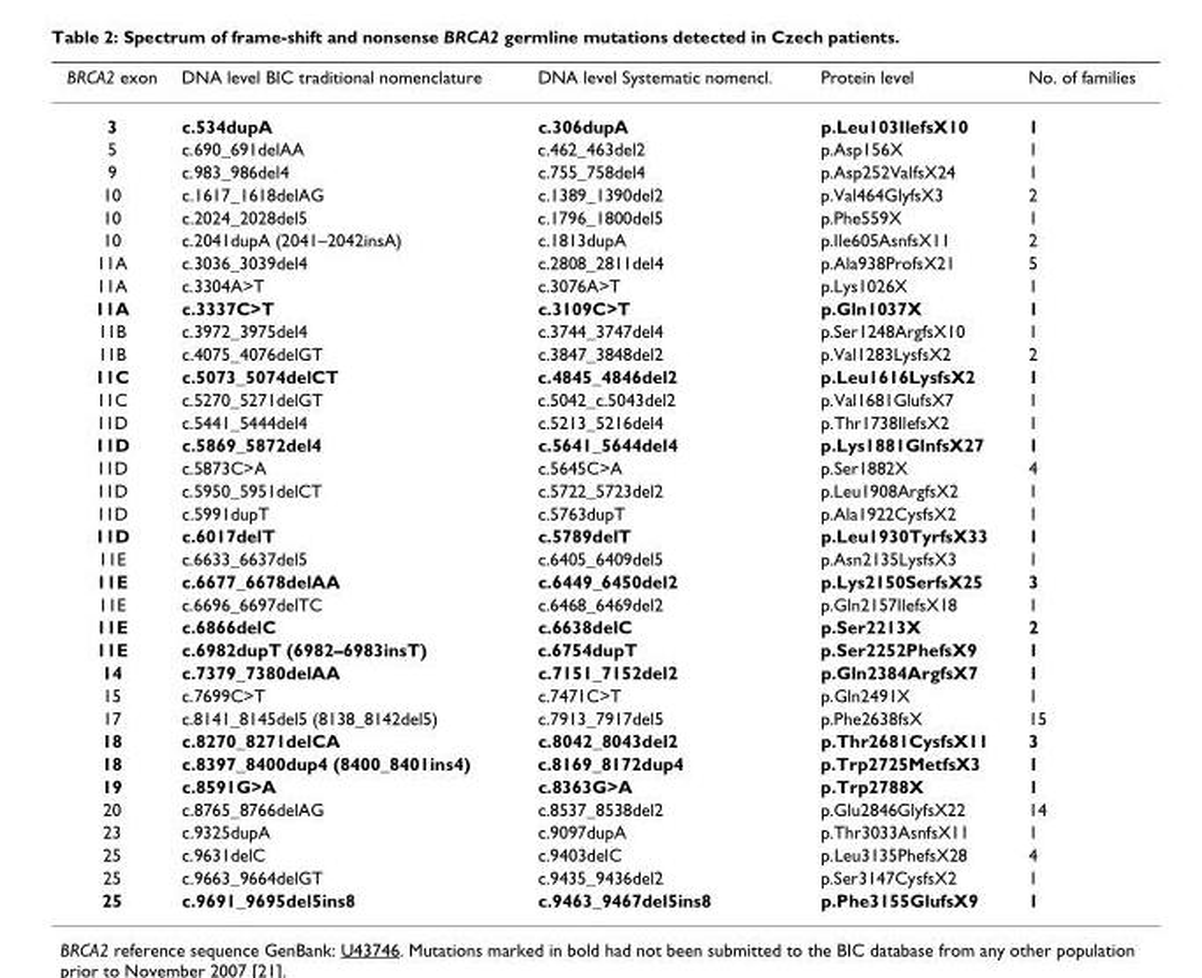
<table><thead><tr><td>BRCA2 exon</td><td>DNA level BIC traditional nomenclature</td><td>DNA level Systematic nomencl.</td><td>Protein level</td><td>No. of families</td></tr></thead><tbody><tr><td>3</td><td>c.534dupA</td><td>c.306dupA</td><td>p.Leu103IlefsX10</td><td>1</td></tr><tr><td>5</td><td>c.690_691delAA</td><td>c.462_463del2</td><td>p.Asp156X</td><td>1</td></tr><tr><td>9</td><td>c.983_986del4</td><td>c.755_758del4</td><td>p.Asp252ValfsX24</td><td>1</td></tr><tr><td>10</td><td>c.1617_1618delAG</td><td>c.1389_1390del2</td><td>p.Val464GlyfsX3</td><td>2</td></tr><tr><td>10</td><td>c.2024_2028del5</td><td>c.1796_1800del5</td><td>p.Phe559X</td><td>1</td></tr><tr><td>10</td><td>c.2041dupA (2041–2042insA)</td><td>c.1813dupA</td><td>p.Ile605AsnfsX11</td><td>2</td></tr><tr><td>11A</td><td>c.3036_3039del4</td><td>c.2808_2811del4</td><td>p.Ala938ProfsX21</td><td>5</td></tr><tr><td>11A</td><td>c.3304A&gt;T</td><td>c.3076A&gt;T</td><td>p.Lys1026X</td><td>1</td></tr><tr><td>11A</td><td>c.3337C&gt;T</td><td>c.3109C&gt;T</td><td>p.Gln1037X</td><td>1</td></tr><tr><td>11B</td><td>c.3972_3975del4</td><td>c.3744_3747del4</td><td>p.Ser1248ArgfsX10</td><td>1</td></tr><tr><td>11B</td><td>c.4075_4076delGT</td><td>c.3847_3848del2</td><td>p.Val1283LysfsX2</td><td>2</td></tr><tr><td>11C</td><td>c.5073_5074delCT</td><td>c.4845_4846del2</td><td>p.Leu1616LysfsX2</td><td>1</td></tr><tr><td>11C</td><td>c.5270_5271delGT</td><td>c.5042_c.5043del2</td><td>p.Val1681GlufsX7</td><td>1</td></tr><tr><td>11D</td><td>c.5441_5444del4</td><td>c.5213_5216del4</td><td>p.Thr1738IlefsX2</td><td>1</td></tr><tr><td>11D</td><td>c.5869_5872del4</td><td>c.5641_5644del4</td><td>p.Lys1881GlnfsX27</td><td>1</td></tr><tr><td>11D</td><td>c.5873C&gt;A</td><td>c.5645C&gt;A</td><td>p.Ser1882X</td><td>4</td></tr><tr><td>11D</td><td>c.5950_5951delCT</td><td>c.5722_5723del2</td><td>p.Leu1908ArgfsX2</td><td>1</td></tr><tr><td>11D</td><td>c.5991dupT</td><td>c.5763dupT</td><td>p.Ala1922CysfsX2</td><td>1</td></tr><tr><td>11D</td><td>c.6017delT</td><td>c.5789delT</td><td>p.Leu1930TyrfsX33</td><td>1</td></tr><tr><td>11E</td><td>c.6633_6637del5</td><td>c.6405_6409del5</td><td>p.Asn2135LysfsX3</td><td>1</td></tr><tr><td>11E</td><td>c.6677_6678delAA</td><td>c.6449_6450del2</td><td>p.Lys2150SerfsX25</td><td>3</td></tr><tr><td>11E</td><td>c.6696_6697delTC</td><td>c.6468_6469del2</td><td>p.Gln2157IlefsX18</td><td>1</td></tr><tr><td>11E</td><td>c.6866delC</td><td>c.6638delC</td><td>p.Ser2213X</td><td>2</td></tr><tr><td>11E</td><td>c.6982dupT (6982–6983insT)</td><td>c.6754dupT</td><td>p.Ser2252PhefsX9</td><td>1</td></tr><tr><td>14</td><td>c.7379_7380delAA</td><td>c.7151_7152del2</td><td>p.Gln2384ArgfsX7</td><td>1</td></tr><tr><td>15</td><td>c.7699C&gt;T</td><td>c.7471C&gt;T</td><td>p.Gln2491X</td><td>1</td></tr><tr><td>17</td><td>c.8141_8145del5 (8138_8142del5)</td><td>c.7913_7917del5</td><td>p.Phe2638fsX</td><td>15</td></tr><tr><td>18</td><td>c.8270_8271delCA</td><td>c.8042_8043del2</td><td>p.Thr2681CysfsX11</td><td>3</td></tr><tr><td>18</td><td>c.8397_8400dup4 (8400_8401ins4)</td><td>c.8169_8172dup4</td><td>p.Trp2725MetfsX3</td><td>1</td></tr><tr><td>19</td><td>c.8591G&gt;A</td><td>c.8363G&gt;A</td><td>p.Trp2788X</td><td>1</td></tr><tr><td>20</td><td>c.8765_8766delAG</td><td>c.8537_8538del2</td><td>p.Glu2846GlyfsX22</td><td>14</td></tr><tr><td>23</td><td>c.9325dupA</td><td>c.9097dupA</td><td>p.Thr3033AsnfsX11</td><td>1</td></tr><tr><td>25</td><td>c.9631delC</td><td>c.9403delC</td><td>p.Leu3135PhefsX28</td><td>4</td></tr><tr><td>25</td><td>c.9663_9664delGT</td><td>c.9435_9436del2</td><td>p.Ser3147CysfsX2</td><td>1</td></tr><tr><td>25</td><td>c.9691_9695del5ins8</td><td>c.9463_9467del5ins8</td><td>p.Phe3155GlufsX9</td><td>1</td></tr></tbody></table>